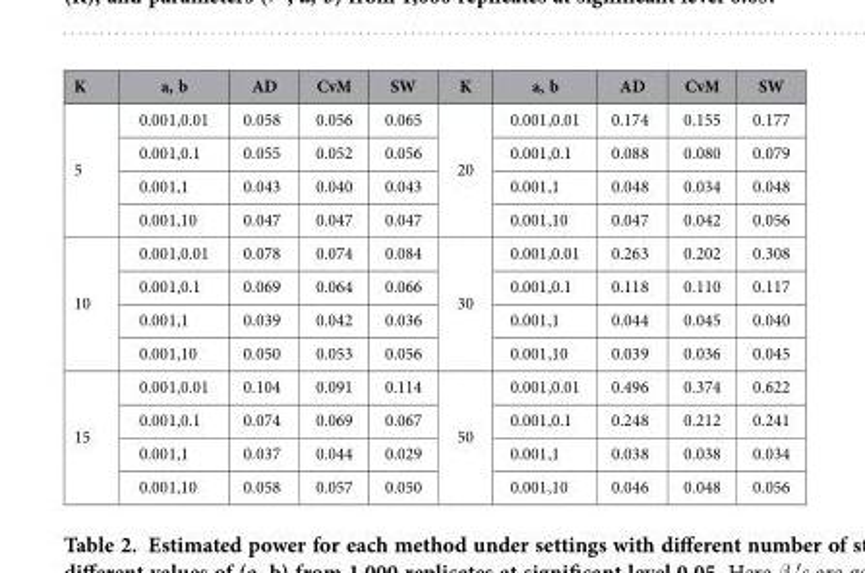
<table><thead><tr><td>K</td><td>a, b</td><td>AD</td><td>CvM</td><td>SW</td><td>K</td><td>a, b</td><td>AD</td><td>CvM</td><td>SW</td></tr></thead><tbody><tr><td rowspan="4">5</td><td>0.001,0.01</td><td>0.058</td><td>0.056</td><td>0.065</td><td rowspan="4">20</td><td>0.001,0.01</td><td>0.174</td><td>0.155</td><td>0.177</td></tr><tr><td>0.001,0.1</td><td>0.055</td><td>0.052</td><td>0.056</td><td>0.001,0.1</td><td>0.088</td><td>0.080</td><td>0.079</td></tr><tr><td>0.001,1</td><td>0.043</td><td>0.040</td><td>0.043</td><td>0.001,1</td><td>0.048</td><td>0.034</td><td>0.048</td></tr><tr><td>0.001,10</td><td>0.047</td><td>0.047</td><td>0.047</td><td>0.001,10</td><td>0.047</td><td>0.042</td><td>0.056</td></tr><tr><td rowspan="4">10</td><td>0.001,0.01</td><td>0.078</td><td>0.074</td><td>0.084</td><td rowspan="4">30</td><td>0.001,0.01</td><td>0.263</td><td>0.202</td><td>0.308</td></tr><tr><td>0.001,0.1</td><td>0.069</td><td>0.064</td><td>0.066</td><td>0.001,0.1</td><td>0.118</td><td>0.110</td><td>0.117</td></tr><tr><td>0.001,1</td><td>0.039</td><td>0.042</td><td>0.036</td><td>0.001,1</td><td>0.044</td><td>0.045</td><td>0.040</td></tr><tr><td>0.001,10</td><td>0.050</td><td>0.053</td><td>0.056</td><td>0.001,10</td><td>0.039</td><td>0.036</td><td>0.045</td></tr><tr><td rowspan="4">15</td><td>0.001,0.01</td><td>0.104</td><td>0.091</td><td>0.114</td><td rowspan="4">50</td><td>0.001,0.01</td><td>0.496</td><td>0.374</td><td>0.622</td></tr><tr><td>0.001,0.1</td><td>0.074</td><td>0.069</td><td>0.067</td><td>0.001,0.1</td><td>0.248</td><td>0.212</td><td>0.241</td></tr><tr><td>0.001,1</td><td>0.037</td><td>0.044</td><td>0.029</td><td>0.001,1</td><td>0.038</td><td>0.038</td><td>0.034</td></tr><tr><td>0.001,10</td><td>0.058</td><td>0.057</td><td>0.050</td><td>0.001,10</td><td>0.046</td><td>0.048</td><td>0.056</td></tr></tbody></table>